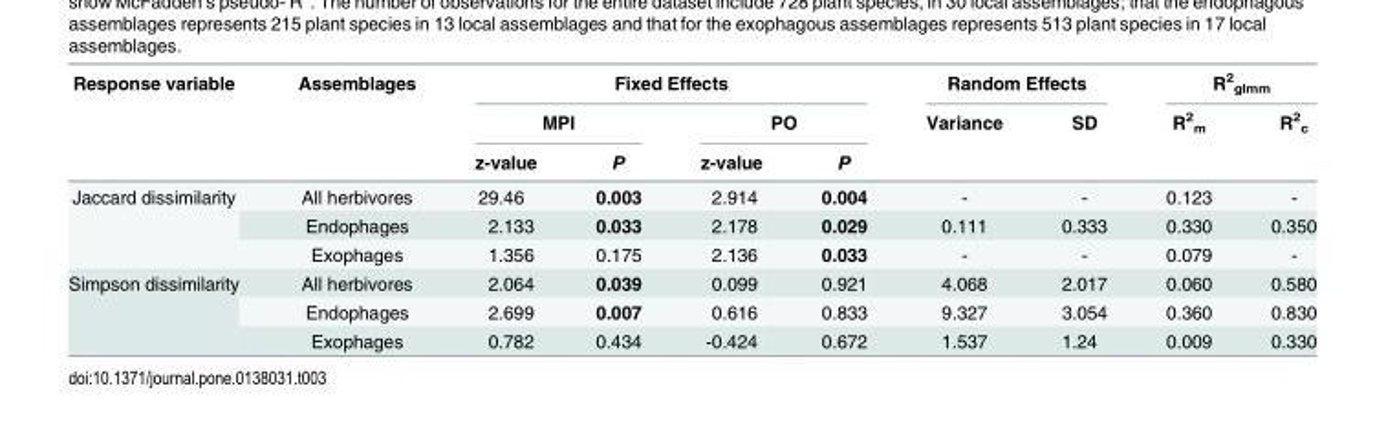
<table><thead><tr><td rowspan="3">Response variable</td><td rowspan="3">Assemblages</td><td colspan="4">Fixed Effects</td><td colspan="2">Random Effects</td><td colspan="2">R<sup>2</sup> <sub>glmm</sub></td></tr><tr><td colspan="2">MPI</td><td colspan="2">PO</td><td rowspan="2">Variance</td><td rowspan="2">SD</td><td rowspan="2">R<sup>2</sup> <sub>m</sub></td><td rowspan="2">R<sup>2</sup> <sub>c</sub></td></tr><tr><td>z-value</td><td>P</td><td>z-value</td><td>P</td></tr></thead><tbody><tr><td rowspan="3">Jaccard dissimilarity</td><td>All herbivores</td><td>29.46</td><td>0.003</td><td>2.914</td><td>0.004</td><td>-</td><td>-</td><td>0.123</td><td>-</td></tr><tr><td>Endophages</td><td>2.133</td><td>0.033</td><td>2.178</td><td>0.029</td><td>0.111</td><td>0.333</td><td>0.330</td><td>0.350</td></tr><tr><td>Exophages</td><td>1.356</td><td>0.175</td><td>2.136</td><td>0.033</td><td>-</td><td>-</td><td>0.079</td><td>-</td></tr><tr><td rowspan="3">Simpson dissimilarity</td><td>All herbivores</td><td>2.064</td><td>0.039</td><td>0.099</td><td>0.921</td><td>4.068</td><td>2.017</td><td>0.060</td><td>0.580</td></tr><tr><td>Endophages</td><td>2.699</td><td>0.007</td><td>0.616</td><td>0.833</td><td>9.327</td><td>3.054</td><td>0.360</td><td>0.830</td></tr><tr><td>Exophages</td><td>0.782</td><td>0.434</td><td>-0.424</td><td>0.672</td><td>1.537</td><td>1.24</td><td>0.009</td><td>0.330</td></tr></tbody></table>